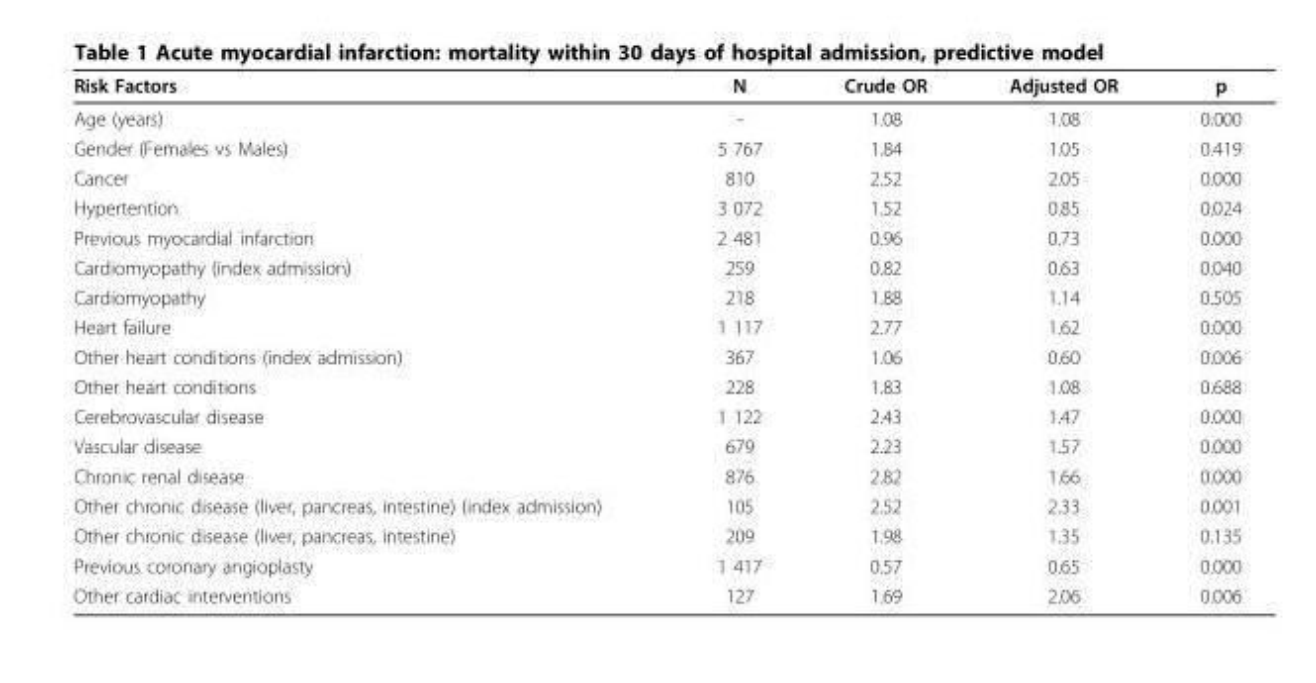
<table><thead><tr><td>Risk Factors</td><td>N</td><td>Crude OR</td><td>Adjusted OR</td><td>p</td></tr></thead><tbody><tr><td>Age (years)</td><td>-</td><td>1.08</td><td>1.08</td><td>0.000</td></tr><tr><td>Gender (Females vs Males)</td><td>5 767</td><td>1.84</td><td>1.05</td><td>0.419</td></tr><tr><td>Cancer</td><td>810</td><td>2.52</td><td>2.05</td><td>0.000</td></tr><tr><td>Hypertention</td><td>3 072</td><td>1.52</td><td>0.85</td><td>0.024</td></tr><tr><td>Previous myocardial infarction</td><td>2 481</td><td>0.96</td><td>0.73</td><td>0.000</td></tr><tr><td>Cardiomyopathy (index admission)</td><td>259</td><td>0.82</td><td>0.63</td><td>0.040</td></tr><tr><td>Cardiomyopathy</td><td>218</td><td>1.88</td><td>1.14</td><td>0.505</td></tr><tr><td>Heart failure</td><td>1 117</td><td>2.77</td><td>1.62</td><td>0.000</td></tr><tr><td>Other heart conditions (index admission)</td><td>367</td><td>1.06</td><td>0.60</td><td>0.006</td></tr><tr><td>Other heart conditions</td><td>228</td><td>1.83</td><td>1.08</td><td>0.688</td></tr><tr><td>Cerebrovascular disease</td><td>1 122</td><td>2.43</td><td>1.47</td><td>0.000</td></tr><tr><td>Vascular disease</td><td>679</td><td>2.23</td><td>1.57</td><td>0.000</td></tr><tr><td>Chronic renal disease</td><td>876</td><td>2.82</td><td>1.66</td><td>0.000</td></tr><tr><td>Other chronic disease (liver, pancreas, intestine) (index admission)</td><td>105</td><td>2.52</td><td>2.33</td><td>0.001</td></tr><tr><td>Other chronic disease (liver, pancreas, intestine)</td><td>209</td><td>1.98</td><td>1.35</td><td>0.135</td></tr><tr><td>Previous coronary angioplasty</td><td>1 417</td><td>0.57</td><td>0.65</td><td>0.000</td></tr><tr><td>Other cardiac interventions</td><td>127</td><td>1.69</td><td>2.06</td><td>0.006</td></tr></tbody></table>